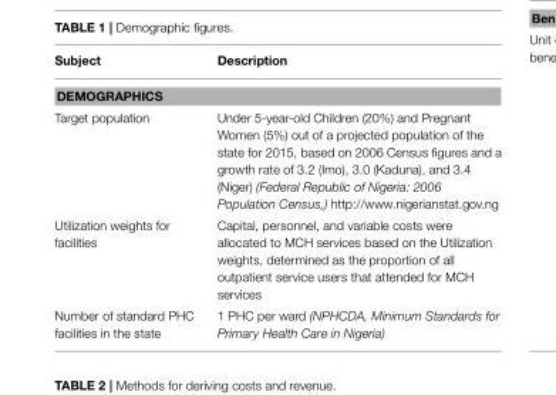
<table><thead><tr><td>Subject</td><td>Description</td></tr></thead><tbody><tr><td colspan="2">DEMOGRAPHICS</td></tr><tr><td>Target population</td><td>Under 5-year-old Children (20%) and Pregnant Women (5%) out of a projected population of the state for 2015, based on 2006 Census figures and a growth rate of 3.2 (Imo), 3.0 (Kaduna), and 3.4 (Niger) (Federal Republic of Nigeria: 2006 Population Census,) http://www.nigerianstat.gov.ng</td></tr><tr><td>Utilization weights for facilities</td><td>Capital, personnel, and variable costs were allocated to MCH services based on the Utilization weights, determined as the proportion of all outpatient service users that attended for MCH services</td></tr><tr><td>Number of standard PHC facilities in the state</td><td>1 PHC per ward (NPHCDA, Minimum Standards for Primary Health Care in Nigeria)</td></tr></tbody></table>